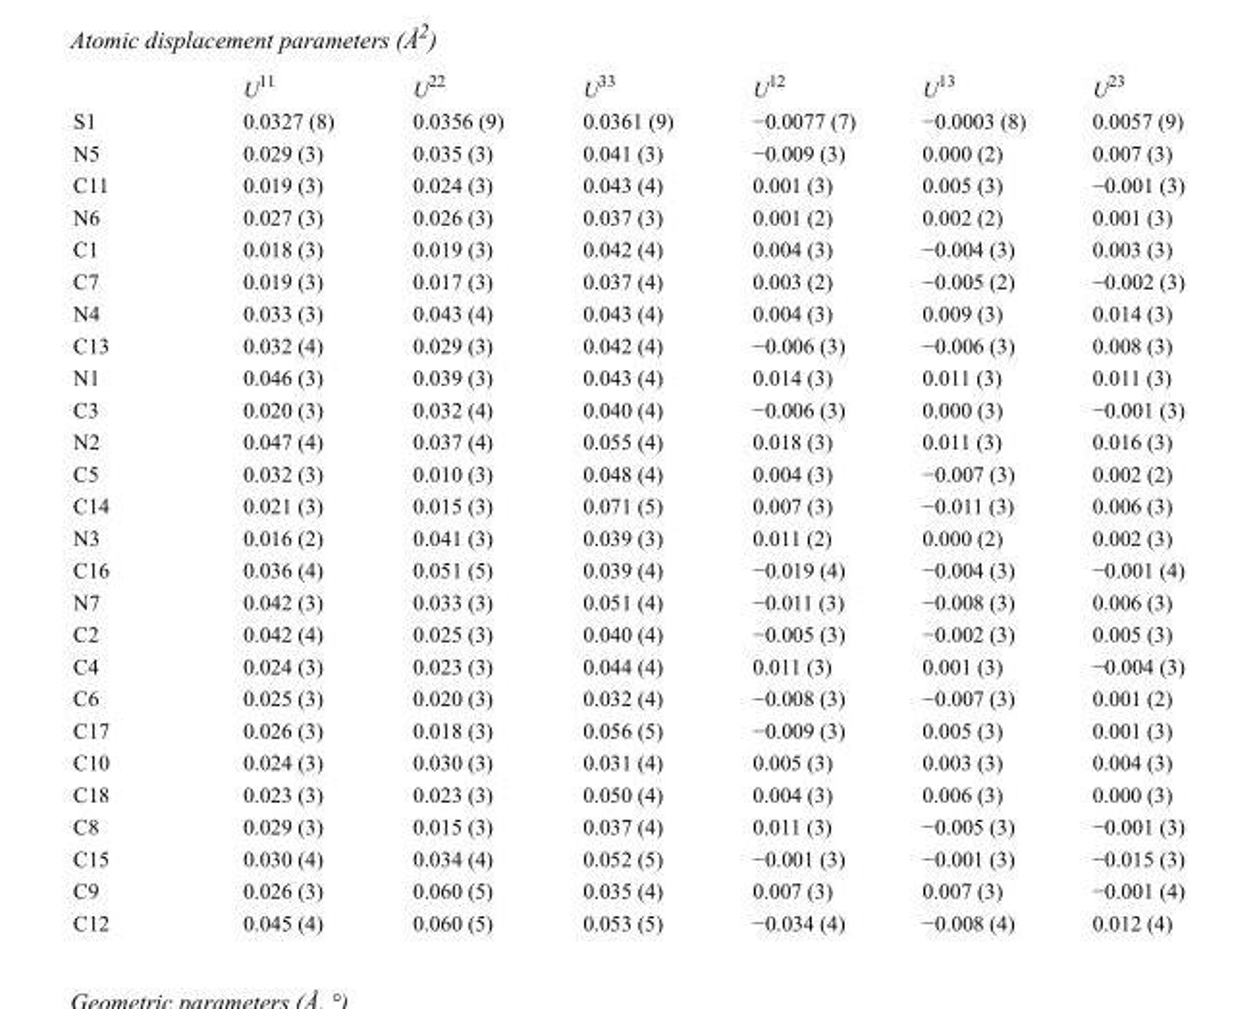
<table><thead><tr><td></td><td>U<sup>11</sup></td><td>U<sup>22</sup></td><td>U<sup>33</sup></td><td>U<sup>12</sup></td><td>U<sup>13</sup></td><td>U<sup>23</sup></td></tr></thead><tbody><tr><td>S1</td><td>0.0327 (8)</td><td>0.0356 (9)</td><td>0.0361 (9)</td><td>−0.0077 (7)</td><td>−0.0003 (8)</td><td>0.0057 (9)</td></tr><tr><td>N5</td><td>0.029 (3)</td><td>0.035 (3)</td><td>0.041 (3)</td><td>−0.009 (3)</td><td>0.000 (2)</td><td>0.007 (3)</td></tr><tr><td>C11</td><td>0.019 (3)</td><td>0.024 (3)</td><td>0.043 (4)</td><td>0.001 (3)</td><td>0.005 (3)</td><td>−0.001 (3)</td></tr><tr><td>N6</td><td>0.027 (3)</td><td>0.026 (3)</td><td>0.037 (3)</td><td>0.001 (2)</td><td>0.002 (2)</td><td>0.001 (3)</td></tr><tr><td>C1</td><td>0.018 (3)</td><td>0.019 (3)</td><td>0.042 (4)</td><td>0.004 (3)</td><td>−0.004 (3)</td><td>0.003 (3)</td></tr><tr><td>C7</td><td>0.019 (3)</td><td>0.017 (3)</td><td>0.037 (4)</td><td>0.003 (2)</td><td>−0.005 (2)</td><td>−0.002 (3)</td></tr><tr><td>N4</td><td>0.033 (3)</td><td>0.043 (4)</td><td>0.043 (4)</td><td>0.004 (3)</td><td>0.009 (3)</td><td>0.014 (3)</td></tr><tr><td>C13</td><td>0.032 (4)</td><td>0.029 (3)</td><td>0.042 (4)</td><td>−0.006 (3)</td><td>−0.006 (3)</td><td>0.008 (3)</td></tr><tr><td>N1</td><td>0.046 (3)</td><td>0.039 (3)</td><td>0.043 (4)</td><td>0.014 (3)</td><td>0.011 (3)</td><td>0.011 (3)</td></tr><tr><td>C3</td><td>0.020 (3)</td><td>0.032 (4)</td><td>0.040 (4)</td><td>−0.006 (3)</td><td>0.000 (3)</td><td>−0.001 (3)</td></tr><tr><td>N2</td><td>0.047 (4)</td><td>0.037 (4)</td><td>0.055 (4)</td><td>0.018 (3)</td><td>0.011 (3)</td><td>0.016 (3)</td></tr><tr><td>C5</td><td>0.032 (3)</td><td>0.010 (3)</td><td>0.048 (4)</td><td>0.004 (3)</td><td>−0.007 (3)</td><td>0.002 (2)</td></tr><tr><td>C14</td><td>0.021 (3)</td><td>0.015 (3)</td><td>0.071 (5)</td><td>0.007 (3)</td><td>−0.011 (3)</td><td>0.006 (3)</td></tr><tr><td>N3</td><td>0.016 (2)</td><td>0.041 (3)</td><td>0.039 (3)</td><td>0.011 (2)</td><td>0.000 (2)</td><td>0.002 (3)</td></tr><tr><td>C16</td><td>0.036 (4)</td><td>0.051 (5)</td><td>0.039 (4)</td><td>−0.019 (4)</td><td>−0.004 (3)</td><td>−0.001 (4)</td></tr><tr><td>N7</td><td>0.042 (3)</td><td>0.033 (3)</td><td>0.051 (4)</td><td>−0.011 (3)</td><td>−0.008 (3)</td><td>0.006 (3)</td></tr><tr><td>C2</td><td>0.042 (4)</td><td>0.025 (3)</td><td>0.040 (4)</td><td>−0.005 (3)</td><td>−0.002 (3)</td><td>0.005 (3)</td></tr><tr><td>C4</td><td>0.024 (3)</td><td>0.023 (3)</td><td>0.044 (4)</td><td>0.011 (3)</td><td>0.001 (3)</td><td>−0.004 (3)</td></tr><tr><td>C6</td><td>0.025 (3)</td><td>0.020 (3)</td><td>0.032 (4)</td><td>−0.008 (3)</td><td>−0.007 (3)</td><td>0.001 (2)</td></tr><tr><td>C17</td><td>0.026 (3)</td><td>0.018 (3)</td><td>0.056 (5)</td><td>−0.009 (3)</td><td>0.005 (3)</td><td>0.001 (3)</td></tr><tr><td>C10</td><td>0.024 (3)</td><td>0.030 (3)</td><td>0.031 (4)</td><td>0.005 (3)</td><td>0.003 (3)</td><td>0.004 (3)</td></tr><tr><td>C18</td><td>0.023 (3)</td><td>0.023 (3)</td><td>0.050 (4)</td><td>0.004 (3)</td><td>0.006 (3)</td><td>0.000 (3)</td></tr><tr><td>C8</td><td>0.029 (3)</td><td>0.015 (3)</td><td>0.037 (4)</td><td>0.011 (3)</td><td>−0.005 (3)</td><td>−0.001 (3)</td></tr><tr><td>C15</td><td>0.030 (4)</td><td>0.034 (4)</td><td>0.052 (5)</td><td>−0.001 (3)</td><td>−0.001 (3)</td><td>−0.015 (3)</td></tr><tr><td>C9</td><td>0.026 (3)</td><td>0.060 (5)</td><td>0.035 (4)</td><td>0.007 (3)</td><td>0.007 (3)</td><td>−0.001 (4)</td></tr><tr><td>C12</td><td>0.045 (4)</td><td>0.060 (5)</td><td>0.053 (5)</td><td>−0.034 (4)</td><td>−0.008 (4)</td><td>0.012 (4)</td></tr></tbody></table>